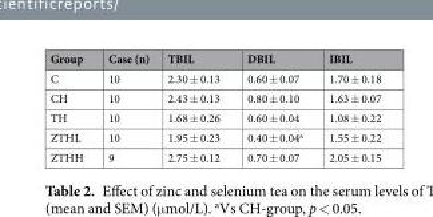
<table><thead><tr><td>Group</td><td>Case (n)</td><td>TBIL</td><td>DBIL</td><td>IBIL</td></tr></thead><tbody><tr><td>C</td><td>10</td><td>2.30 ± 0.13</td><td>0.60 ± 0.07</td><td>1.70 ± 0.18</td></tr><tr><td>CH</td><td>10</td><td>2.43 ± 0.13</td><td>0.80 ± 0.10</td><td>1.63 ± 0.07</td></tr><tr><td>TH</td><td>10</td><td>1.68 ± 0.26</td><td>0.60 ± 0.04</td><td>1.08 ± 0.22</td></tr><tr><td>ZTHL</td><td>10</td><td>1.95 ± 0.23</td><td>0.40 ± 0.04<sup>a</sup></td><td>1.55 ± 0.22</td></tr><tr><td>ZTHH</td><td>9</td><td>2.75 ± 0.12</td><td>0.70 ± 0.07</td><td>2.05 ± 0.15</td></tr></tbody></table>